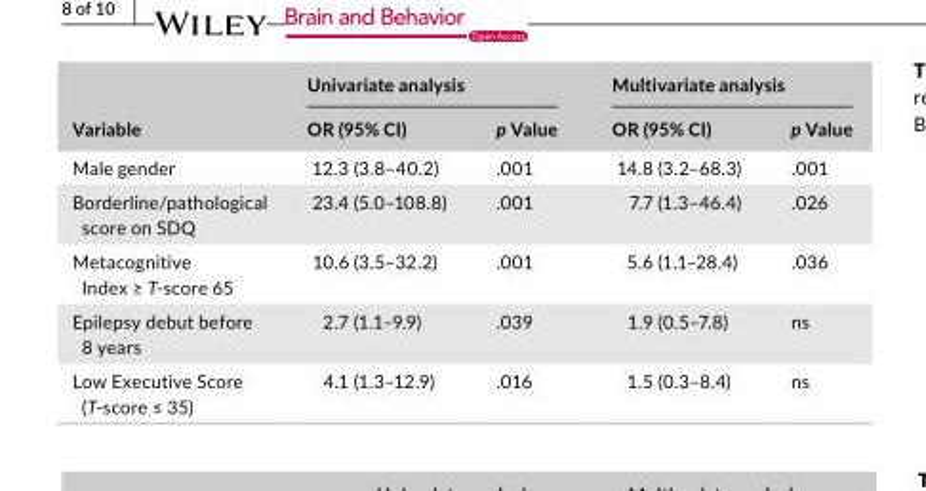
<table><thead><tr><td rowspan="2">Variable</td><td colspan="2">Univariate analysis</td><td colspan="2">Multivariate analysis</td></tr><tr><td>OR (95% CI)</td><td>p Value</td><td>OR (95% CI)</td><td>p Value</td></tr></thead><tbody><tr><td>Male gender</td><td>12.3 (3.8–40.2)</td><td>.001</td><td>14.8 (3.2–68.3)</td><td>.001</td></tr><tr><td>Borderline/pathological score on SDQ</td><td>23.4 (5.0–108.8)</td><td>.001</td><td>7.7 (1.3–46.4)</td><td>.026</td></tr><tr><td>Metacognitive Index ≥ T- score 65</td><td>10.6 (3.5–32.2)</td><td>.001</td><td>5.6 (1.1–28.4)</td><td>.036</td></tr><tr><td>Epilepsy debut before 8 years</td><td>2.7 (1.1–9.9)</td><td>.039</td><td>1.9 (0.5–7.8)</td><td>ns</td></tr><tr><td>Low Executive Score (T- score ≤ 35)</td><td>4.1 (1.3–12.9)</td><td>.016</td><td>1.5 (0.3–8.4)</td><td>ns</td></tr></tbody></table>